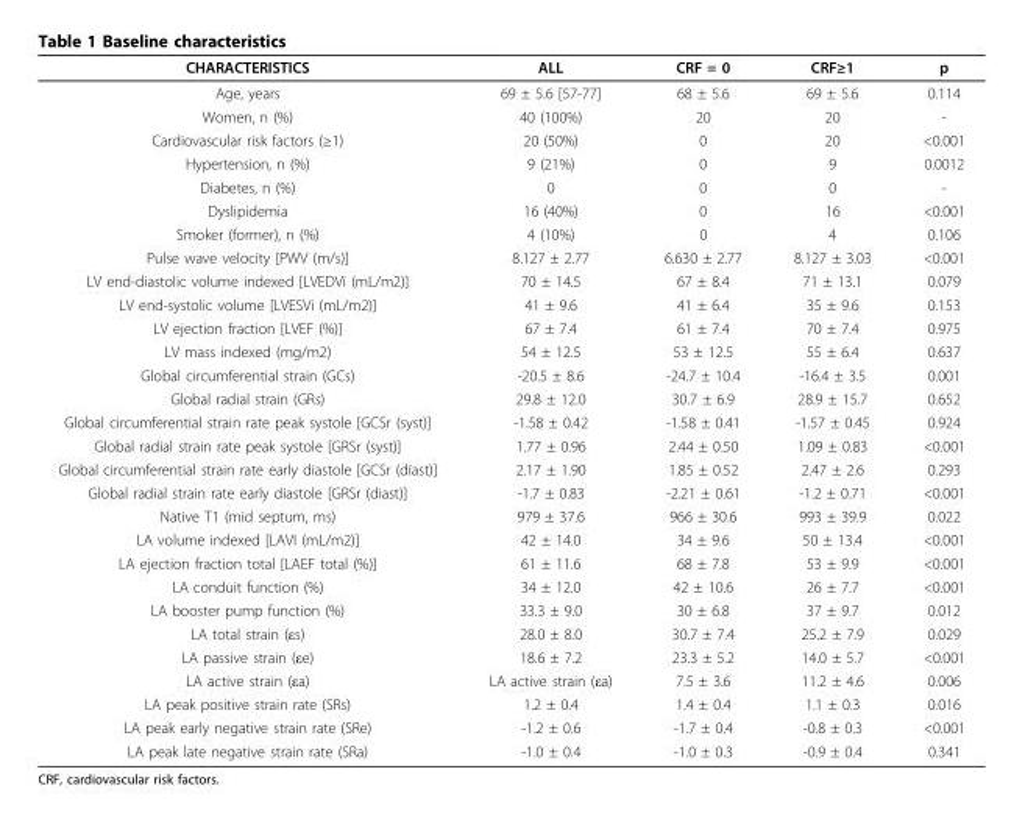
<table><thead><tr><td>CHARACTERISTICS</td><td>ALL</td><td>CRF = 0</td><td>CRF≥1</td><td>p</td></tr></thead><tbody><tr><td>Age, years</td><td>69 ± 5.6 [57-77]</td><td>68 ± 5.6</td><td>69 ± 5.6</td><td>0.114</td></tr><tr><td>Women, n (%)</td><td>40 (100%)</td><td>20</td><td>20</td><td>-</td></tr><tr><td>Cardiovascular risk factors (≥1)</td><td>20 (50%)</td><td>0</td><td>20</td><td>&lt;0.001</td></tr><tr><td>Hypertension, n (%)</td><td>9 (21%)</td><td>0</td><td>9</td><td>0.0012</td></tr><tr><td>Diabetes, n (%)</td><td>0</td><td>0</td><td>0</td><td>-</td></tr><tr><td>Dyslipidemia</td><td>16 (40%)</td><td>0</td><td>16</td><td>&lt;0.001</td></tr><tr><td>Smoker (former), n (%)</td><td>4 (10%)</td><td>0</td><td>4</td><td>0.106</td></tr><tr><td>Pulse wave velocity [PWV (m/s)]</td><td>8.127 ± 2.77</td><td>6.630 ± 2.77</td><td>8.127 ± 3.03</td><td>&lt;0.001</td></tr><tr><td>LV end-diastolic volume indexed [LVEDVi (mL/m2)]</td><td>70 ± 14.5</td><td>67 ± 8.4</td><td>71 ± 13.1</td><td>0.079</td></tr><tr><td>LV end-systolic volume [LVESVi (mL/m2)]</td><td>41 ± 9.6</td><td>41 ± 6.4</td><td>35 ± 9.6</td><td>0.153</td></tr><tr><td>LV ejection fraction [LVEF (%)]</td><td>67 ± 7.4</td><td>61 ± 7.4</td><td>70 ± 7.4</td><td>0.975</td></tr><tr><td>LV mass indexed (mg/m2)</td><td>54 ± 12.5</td><td>53 ± 12.5</td><td>55 ± 6.4</td><td>0.637</td></tr><tr><td>Global circumferential strain (GCs)</td><td>-20.5 ± 8.6</td><td>-24.7 ± 10.4</td><td>-16.4 ± 3.5</td><td>0.001</td></tr><tr><td>Global radial strain (GRs)</td><td>29.8 ± 12.0</td><td>30.7 ± 6.9</td><td>28.9 ± 15.7</td><td>0.652</td></tr><tr><td>Global circumferential strain rate peak systole [GCSr (syst)]</td><td>-1.58 ± 0.42</td><td>-1.58 ± 0.41</td><td>-1.57 ± 0.45</td><td>0.924</td></tr><tr><td>Global radial strain rate peak systole [GRSr (syst)]</td><td>1.77 ± 0.96</td><td>2.44 ± 0.50</td><td>1.09 ± 0.83</td><td>&lt;0.001</td></tr><tr><td>Global circumferential strain rate early diastole [GCSr (diast)]</td><td>2.17 ± 1.90</td><td>1.85 ± 0.52</td><td>2.47 ± 2.6</td><td>0.293</td></tr><tr><td>Global radial strain rate early diastole [GRSr (diast)]</td><td>-1.7 ± 0.83</td><td>-2.21 ± 0.61</td><td>-1.2 ± 0.71</td><td>&lt;0.001</td></tr><tr><td>Native T1 (mid septum, ms)</td><td>979 ± 37.6</td><td>966 ± 30.6</td><td>993 ± 39.9</td><td>0.022</td></tr><tr><td>LA volume indexed [LAVI (mL/m2)]</td><td>42 ± 14.0</td><td>34 ± 9.6</td><td>50 ± 13.4</td><td>&lt;0.001</td></tr><tr><td>LA ejection fraction total [LAEF total (%)]</td><td>61 ± 11.6</td><td>68 ± 7.8</td><td>53 ± 9.9</td><td>&lt;0.001</td></tr><tr><td>LA conduit function (%)</td><td>34 ± 12.0</td><td>42 ± 10.6</td><td>26 ± 7.7</td><td>&lt;0.001</td></tr><tr><td>LA booster pump function (%)</td><td>33.3 ± 9.0</td><td>30 ± 6.8</td><td>37 ± 9.7</td><td>0.012</td></tr><tr><td>LA total strain (εs)</td><td>28.0 ± 8.0</td><td>30.7 ± 7.4</td><td>25.2 ± 7.9</td><td>0.029</td></tr><tr><td>LA passive strain (εe)</td><td>18.6 ± 7.2</td><td>23.3 ± 5.2</td><td>14.0 ± 5.7</td><td>&lt;0.001</td></tr><tr><td>LA active strain (εa)</td><td>LA active strain (εa)</td><td>7.5 ± 3.6</td><td>11.2 ± 4.6</td><td>0.006</td></tr><tr><td>LA peak positive strain rate (SRs)</td><td>1.2 ± 0.4</td><td>1.4 ± 0.4</td><td>1.1 ± 0.3</td><td>0.016</td></tr><tr><td>LA peak early negative strain rate (SRe)</td><td>-1.2 ± 0.6</td><td>-1.7 ± 0.4</td><td>-0.8 ± 0.3</td><td>&lt;0.001</td></tr><tr><td>LA peak late negative strain rate (SRa)</td><td>-1.0 ± 0.4</td><td>-1.0 ± 0.3</td><td>-0.9 ± 0.4</td><td>0.341</td></tr></tbody></table>